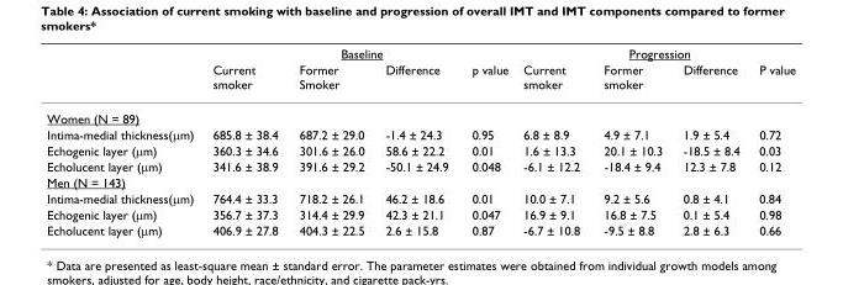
<table><thead><tr><td rowspan="2"></td><td colspan="4">Baseline</td><td colspan="4">Progression</td></tr><tr><td>Current smoker</td><td>Former Smoker</td><td>Difference</td><td>p value</td><td>Current smoker</td><td>Former smoker</td><td>Difference</td><td>P value</td></tr></thead><tbody><tr><td colspan="9">Women (N = 89)</td></tr><tr><td>Intima-medial thickness(µm)</td><td>685.8 ± 38.4</td><td>687.2 ± 29.0</td><td>-1.4 ± 24.3</td><td>0.95</td><td>6.8 ± 8.9</td><td>4.9 ± 7.1</td><td>1.9 ± 5.4</td><td>0.72</td></tr><tr><td>Echogenic layer (µm)</td><td>360.3 ± 34.6</td><td>301.6 ± 26.0</td><td>58.6 ± 22.2</td><td>0.01</td><td>1.6 ± 13.3</td><td>20.1 ± 10.3</td><td>-18.5 ± 8.4</td><td>0.03</td></tr><tr><td>Echolucent layer (µm)</td><td>341.6 ± 38.9</td><td>391.6 ± 29.2</td><td>-50.1 ± 24.9</td><td>0.048</td><td>-6.1 ± 12.2</td><td>-18.4 ± 9.4</td><td>12.3 ± 7.8</td><td>0.12</td></tr><tr><td colspan="9">Men (N = 143)</td></tr><tr><td>Intima-medial thickness(µm)</td><td>764.4 ± 33.3</td><td>718.2 ± 26.1</td><td>46.2 ± 18.6</td><td>0.01</td><td>10.0 ± 7.1</td><td>9.2 ± 5.6</td><td>0.8 ± 4.1</td><td>0.84</td></tr><tr><td>Echogenic layer (µm)</td><td>356.7 ± 37.3</td><td>314.4 ± 29.9</td><td>42.3 ± 21.1</td><td>0.047</td><td>16.9 ± 9.1</td><td>16.8 ± 7.5</td><td>0.1 ± 5.4</td><td>0.98</td></tr><tr><td>Echolucent layer (µm)</td><td>406.9 ± 27.8</td><td>404.3 ± 22.5</td><td>2.6 ± 15.8</td><td>0.87</td><td>-6.7 ± 10.8</td><td>-9.5 ± 8.8</td><td>2.8 ± 6.3</td><td>0.66</td></tr></tbody></table>